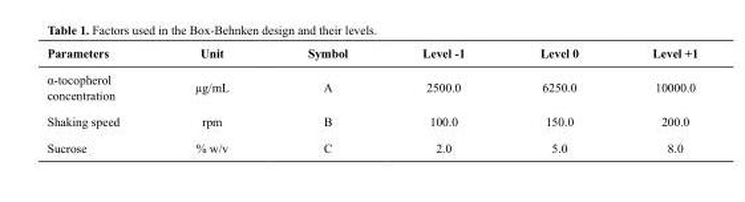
<table><thead><tr><td>Parameters</td><td>Unit</td><td>Symbol</td><td>Level -1</td><td>Level 0</td><td>Level +1</td></tr></thead><tbody><tr><td>α-tocopherol concentration</td><td>µg/mL</td><td>A</td><td>2500.0</td><td>6250.0</td><td>10000.0</td></tr><tr><td>Shaking speed</td><td>rpm</td><td>B</td><td>100.0</td><td>150.0</td><td>200.0</td></tr><tr><td>Sucrose</td><td>% w/v</td><td>C</td><td>2.0</td><td>5.0</td><td>8.0</td></tr></tbody></table>